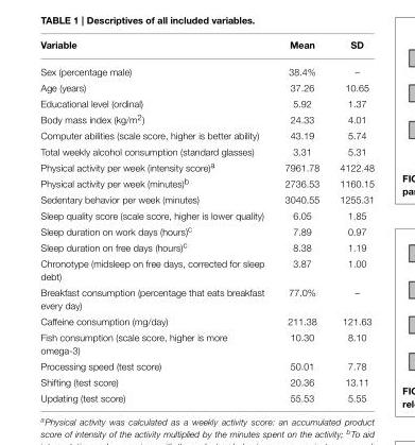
<table><thead><tr><td>Variable</td><td>Mean</td><td>SD</td></tr></thead><tbody><tr><td>Sex (percentage male)</td><td>38.4%</td><td>–</td></tr><tr><td>Age (years)</td><td>37.26</td><td>10.65</td></tr><tr><td>Educational level (ordinal)</td><td>5.92</td><td>1.37</td></tr><tr><td>Body mass index (kg/m<sup>2</sup>)</td><td>24.33</td><td>4.01</td></tr><tr><td>Computer abilities (scale score, higher is better ability)</td><td>43.19</td><td>5.74</td></tr><tr><td>Total weekly alcohol consumption (standard glasses)</td><td>3.31</td><td>5.31</td></tr><tr><td>Physical activity per week (intensity score)<sup>a</sup></td><td>7961.78</td><td>4122.48</td></tr><tr><td>Physical activity per week (minutes)<sup>b</sup></td><td>2736.53</td><td>1160.15</td></tr><tr><td>Sedentary behavior per week (minutes)</td><td>3040.55</td><td>1255.31</td></tr><tr><td>Sleep quality score (scale score, higher is lower quality)</td><td>6.05</td><td>1.85</td></tr><tr><td>Sleep duration on work days (hours)<sup>c</sup></td><td>7.89</td><td>0.97</td></tr><tr><td>Sleep duration on free days (hours)<sup>c</sup></td><td>8.38</td><td>1.19</td></tr><tr><td>Chronotype (midsleep on free days, corrected for sleep debt)</td><td>3.87</td><td>1.00</td></tr><tr><td>Breakfast consumption (percentage that eats breakfast every day)</td><td>77.0%</td><td>–</td></tr><tr><td>Caffeine consumption (mg/day)</td><td>211.38</td><td>121.63</td></tr><tr><td>Fish consumption (scale score, higher is more omega-3)</td><td>10.30</td><td>8.10</td></tr><tr><td>Processing speed (test score)</td><td>50.01</td><td>7.78</td></tr><tr><td>Shifting (test score)</td><td>20.36</td><td>13.11</td></tr><tr><td>Updating (test score)</td><td>55.53</td><td>5.55</td></tr></tbody></table>